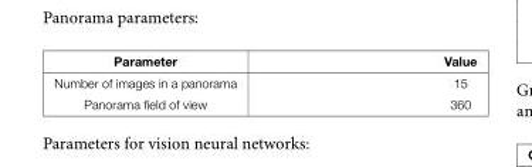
<table><thead><tr><td>Parameter</td><td>Value</td></tr></thead><tbody><tr><td>Number of images in a panorama</td><td>15</td></tr><tr><td>Panorama field of view</td><td>360</td></tr></tbody></table>